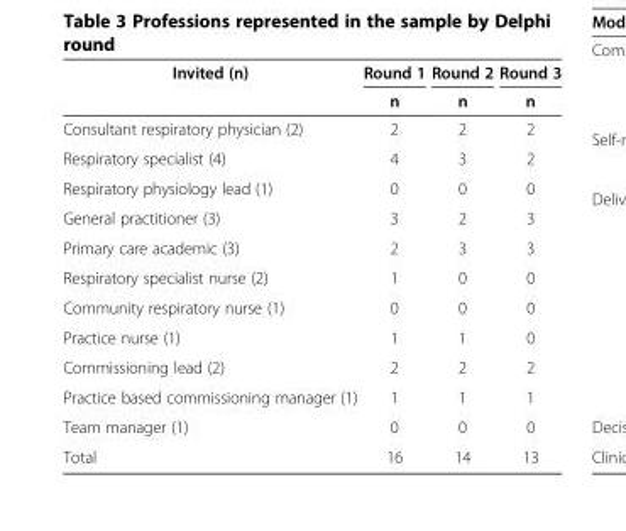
<table><thead><tr><td rowspan="2">Invited (n)</td><td rowspan="2">Round 1 n</td><td rowspan="2">Round 2 n</td><td rowspan="2">Round 3 n</td></tr><tr></tr></thead><tbody><tr><td>Consultant respiratory physician (2)</td><td>2</td><td>2</td><td>2</td></tr><tr><td>Respiratory specialist (4)</td><td>4</td><td>3</td><td>2</td></tr><tr><td>Respiratory physiology lead (1)</td><td>0</td><td>0</td><td>0</td></tr><tr><td>General practitioner (3)</td><td>3</td><td>2</td><td>3</td></tr><tr><td>Primary care academic (3)</td><td>2</td><td>3</td><td>3</td></tr><tr><td>Respiratory specialist nurse (2)</td><td>1</td><td>0</td><td>0</td></tr><tr><td>Community respiratory nurse (1)</td><td>0</td><td>0</td><td>0</td></tr><tr><td>Practice nurse (1)</td><td>1</td><td>1</td><td>0</td></tr><tr><td>Commissioning lead (2)</td><td>2</td><td>2</td><td>2</td></tr><tr><td>Practice based commissioning manager (1)</td><td>1</td><td>1</td><td>1</td></tr><tr><td>Team manager (1)</td><td>0</td><td>0</td><td>0</td></tr><tr><td>Total</td><td>16</td><td>14</td><td>13</td></tr></tbody></table>